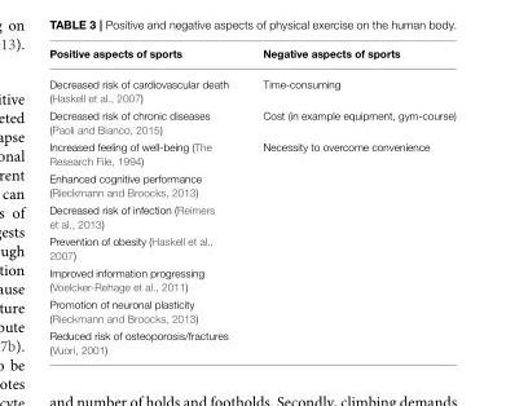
<table><thead><tr><td>Positive aspects of sports</td><td>Negative aspects of sports</td></tr></thead><tbody><tr><td>Decreased risk of cardiovascular death (Haskell et al., 2007)</td><td>Time-consuming</td></tr><tr><td>Decreased risk of chronic diseases (Paoli and Bianco, 2015)</td><td>Cost (in example equipment, gym-course)</td></tr><tr><td>Increased feeling of well-being (The Research File, 1994)</td><td>Necessity to overcome convenience</td></tr><tr><td colspan="2">Enhanced cognitive performance (Rieckmann and Broocks, 2013)</td></tr><tr><td colspan="2">Decreased risk of infection (Reimers et al., 2013)</td></tr><tr><td colspan="2">Prevention of obesity (Haskell et al., 2007)</td></tr><tr><td colspan="2">Improved information progressing (Voelcker-Rehage et al., 2011)</td></tr><tr><td colspan="2">Promotion of neuronal plasticity (Rieckmann and Broocks, 2013)</td></tr><tr><td>Reduced risk of osteoporosis/fractures (Vuori, 2001)</td><td></td></tr></tbody></table>